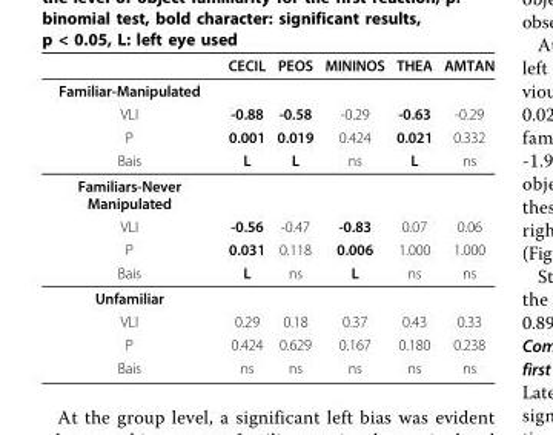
<table><thead><tr><td></td><td>CECIL</td><td>PEOS</td><td>MININOS</td><td>THEA</td><td>AMTAN</td></tr></thead><tbody><tr><td colspan="6">Familiar-Manipulated</td></tr><tr><td>VLI</td><td>-0.88</td><td>-0.58</td><td>-0.29</td><td>-0.63</td><td>-0.29</td></tr><tr><td>P</td><td>0.001</td><td>0.019</td><td>0.424</td><td>0.021</td><td>0.332</td></tr><tr><td>Bais</td><td>L</td><td>L</td><td>ns</td><td>L</td><td>ns</td></tr><tr><td colspan="6">Familiars-Never Manipulated</td></tr><tr><td>VLI</td><td>-0.56</td><td>-0.47</td><td>-0.83</td><td>0.07</td><td>0.06</td></tr><tr><td>P</td><td>0.031</td><td>0.118</td><td>0.006</td><td>1.000</td><td>1.000</td></tr><tr><td>Bais</td><td>L</td><td>ns</td><td>L</td><td>ns</td><td>ns</td></tr><tr><td colspan="6">Unfamiliar</td></tr><tr><td>VLI</td><td>0.29</td><td>0.18</td><td>0.37</td><td>0.43</td><td>0.33</td></tr><tr><td>P</td><td>0.424</td><td>0.629</td><td>0.167</td><td>0.180</td><td>0.238</td></tr><tr><td>Bais</td><td>ns</td><td>ns</td><td>ns</td><td>ns</td><td>ns</td></tr></tbody></table>